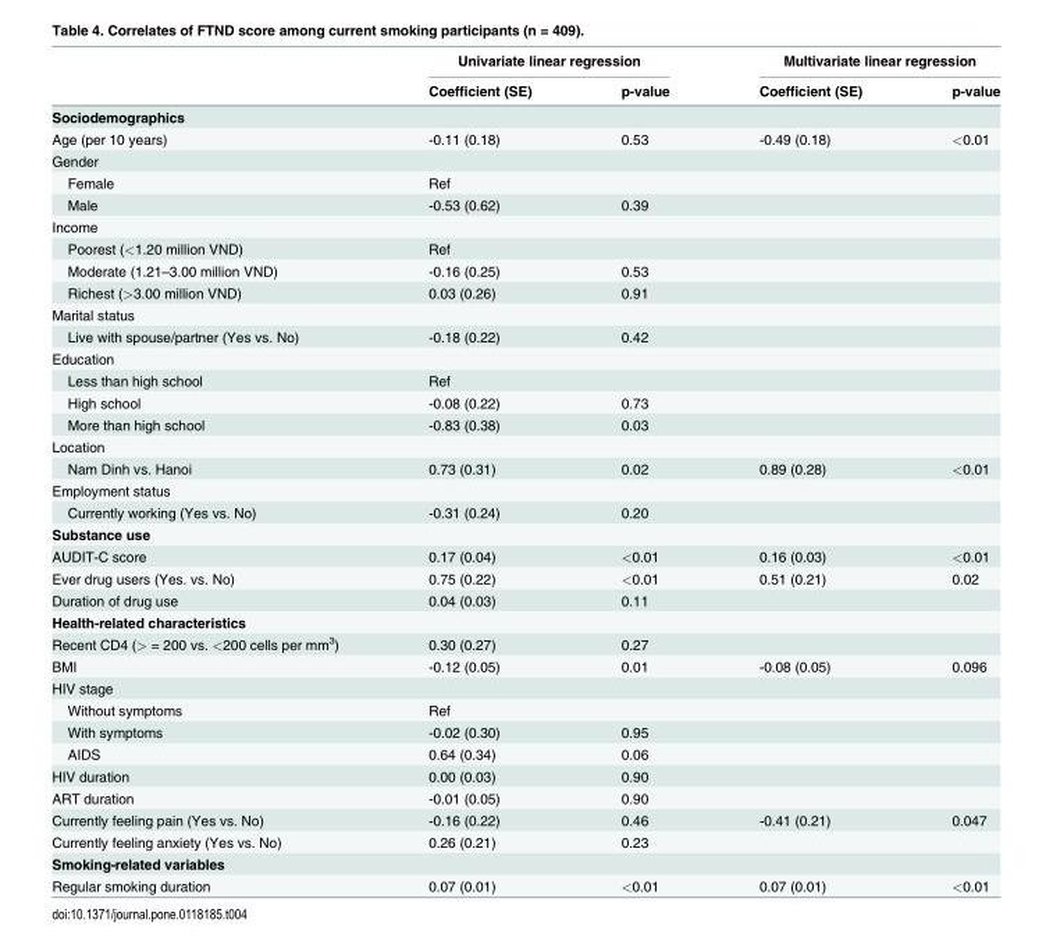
<table><thead><tr><td rowspan="2"></td><td colspan="2">Univariate linear regression</td><td colspan="2">Multivariate linear regression</td></tr><tr><td>Coefficient (SE)</td><td>p-value</td><td>Coefficient (SE)</td><td>p-value</td></tr></thead><tbody><tr><td colspan="5">Sociodemographics</td></tr><tr><td>Age (per 10 years)</td><td>-0.11 (0.18)</td><td>0.53</td><td>-0.49 (0.18)</td><td>&lt;0.01</td></tr><tr><td colspan="5">Gender</td></tr><tr><td>Female</td><td>Ref</td><td></td><td></td><td></td></tr><tr><td>Male</td><td>-0.53 (0.62)</td><td>0.39</td><td></td><td></td></tr><tr><td colspan="5">Income</td></tr><tr><td>Poorest (&lt;1.20 million VND)</td><td>Ref</td><td></td><td></td><td></td></tr><tr><td>Moderate (1.21–3.00 million VND)</td><td>-0.16 (0.25)</td><td>0.53</td><td></td><td></td></tr><tr><td>Richest (&gt;3.00 million VND)</td><td>0.03 (0.26)</td><td>0.91</td><td></td><td></td></tr><tr><td colspan="5">Marital status</td></tr><tr><td>Live with spouse/partner (Yes vs. No)</td><td>-0.18 (0.22)</td><td>0.42</td><td></td><td></td></tr><tr><td colspan="5">Education</td></tr><tr><td>Less than high school</td><td>Ref</td><td></td><td></td><td></td></tr><tr><td>High school</td><td>-0.08 (0.22)</td><td>0.73</td><td></td><td></td></tr><tr><td>More than high school</td><td>-0.83 (0.38)</td><td>0.03</td><td></td><td></td></tr><tr><td colspan="5">Location</td></tr><tr><td>Nam Dinh vs. Hanoi</td><td>0.73 (0.31)</td><td>0.02</td><td>0.89 (0.28)</td><td>&lt;0.01</td></tr><tr><td colspan="5">Employment status</td></tr><tr><td>Currently working (Yes vs. No)</td><td>-0.31 (0.24)</td><td>0.20</td><td></td><td></td></tr><tr><td colspan="5">Substance use</td></tr><tr><td>AUDIT-C score</td><td>0.17 (0.04)</td><td>&lt;0.01</td><td>0.16 (0.03)</td><td>&lt;0.01</td></tr><tr><td>Ever drug users (Yes. vs. No)</td><td>0.75 (0.22)</td><td>&lt;0.01</td><td>0.51 (0.21)</td><td>0.02</td></tr><tr><td>Duration of drug use</td><td>0.04 (0.03)</td><td>0.11</td><td></td><td></td></tr><tr><td colspan="5">Health-related characteristics</td></tr><tr><td>Recent CD4 (&gt; = 200 vs. &lt;200 cells per mm<sup>3</sup>)</td><td>0.30 (0.27)</td><td>0.27</td><td></td><td></td></tr><tr><td>BMI</td><td>-0.12 (0.05)</td><td>0.01</td><td>-0.08 (0.05)</td><td>0.096</td></tr><tr><td colspan="5">HIV stage</td></tr><tr><td>Without symptoms</td><td>Ref</td><td></td><td></td><td></td></tr><tr><td>With symptoms</td><td>-0.02 (0.30)</td><td>0.95</td><td></td><td></td></tr><tr><td>AIDS</td><td>0.64 (0.34)</td><td>0.06</td><td></td><td></td></tr><tr><td>HIV duration</td><td>0.00 (0.03)</td><td>0.90</td><td></td><td></td></tr><tr><td>ART duration</td><td>-0.01 (0.05)</td><td>0.90</td><td></td><td></td></tr><tr><td>Currently feeling pain (Yes vs. No)</td><td>-0.16 (0.22)</td><td>0.46</td><td>-0.41 (0.21)</td><td>0.047</td></tr><tr><td>Currently feeling anxiety (Yes vs. No)</td><td>0.26 (0.21)</td><td>0.23</td><td></td><td></td></tr><tr><td colspan="5">Smoking-related variables</td></tr><tr><td>Regular smoking duration</td><td>0.07 (0.01)</td><td>&lt;0.01</td><td>0.07 (0.01)</td><td>&lt;0.01</td></tr></tbody></table>